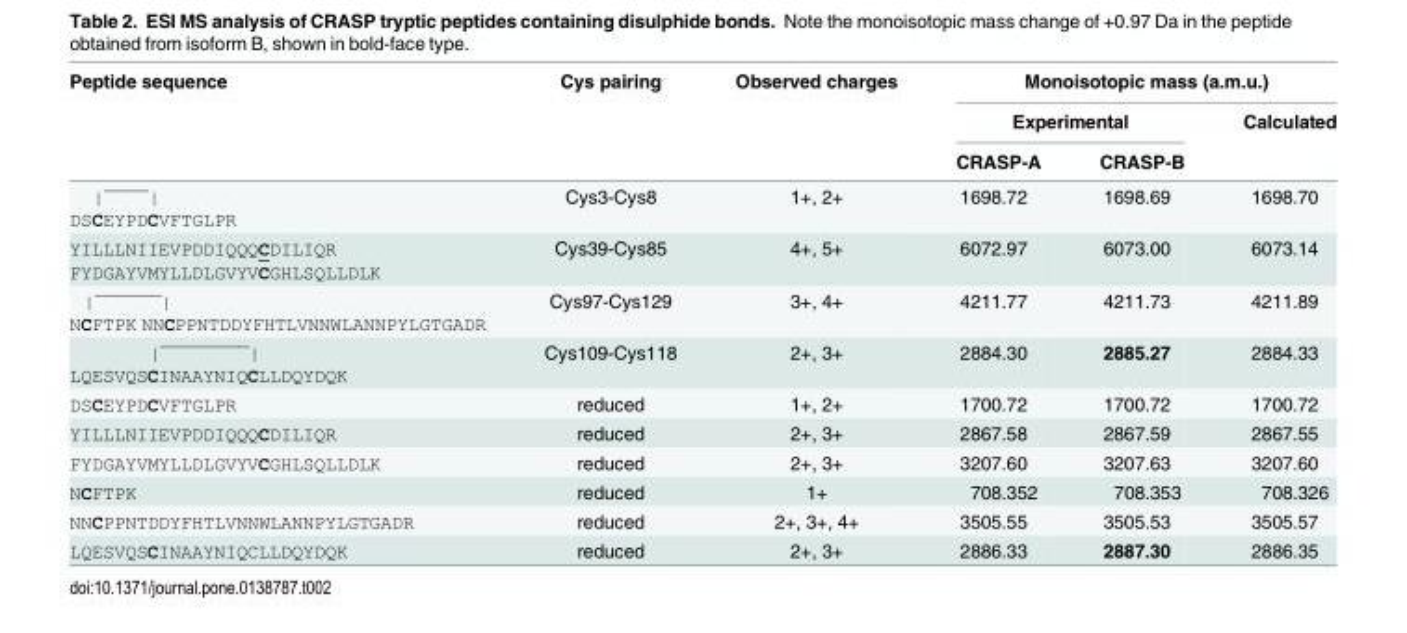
<table><thead><tr><td rowspan="3">Peptide sequence</td><td rowspan="3">Cys pairing</td><td rowspan="3">Observed charges</td><td colspan="3">Monoisotopic mass (a.m.u.)</td></tr><tr><td colspan="2">Experimental</td><td rowspan="2">Calculated</td></tr><tr><td>CRASP-A</td><td>CRASP-B</td></tr></thead><tbody><tr><td>|¯¯¯¯| DSCEYPDCVFTGLPR</td><td>Cys3-Cys8</td><td>1+, 2+</td><td>1698.72</td><td>1698.69</td><td>1698.70</td></tr><tr><td>YILLLNIIEVPDDIQQQCDILIQR FYDGAYVMYLLDLGVYVCGHLSQLLDLK</td><td>Cys39-Cys85</td><td>4+, 5+</td><td>6072.97</td><td>6073.00</td><td>6073.14</td></tr><tr><td>|¯¯¯¯¯¯| NCFTPK NNCPPNTDDYFHTLVNNWLANNPYLGTGADR</td><td>Cys97-Cys129</td><td>3+, 4+</td><td>4211.77</td><td>4211.73</td><td>4211.89</td></tr><tr><td>|¯¯¯¯¯¯¯¯| LQESVQSCINAAYNIQCLLDQYDQK</td><td>Cys109-Cys118</td><td>2+, 3+</td><td>2884.30</td><td>2885.27</td><td>2884.33</td></tr><tr><td>DSCEYPDCVFTGLPR</td><td>reduced</td><td>1+, 2+</td><td>1700.72</td><td>1700.72</td><td>1700.72</td></tr><tr><td>YILLLNIIEVPDDIQQQCDILIQR</td><td>reduced</td><td>2+, 3+</td><td>2867.58</td><td>2867.59</td><td>2867.55</td></tr><tr><td>FYDGAYVMYLLDLGVYVCGHLSQLLDLK</td><td>reduced</td><td>2+, 3+</td><td>3207.60</td><td>3207.63</td><td>3207.60</td></tr><tr><td>NCFTPK</td><td>reduced</td><td>1+</td><td>708.352</td><td>708.353</td><td>708.326</td></tr><tr><td>NNCPPNTDDYFHTLVNNWLANNPYLGTGADR</td><td>reduced</td><td>2+, 3+, 4+</td><td>3505.55</td><td>3505.53</td><td>3505.57</td></tr><tr><td>LQESVQSCINAAYNIQCLLDQYDQK</td><td>reduced</td><td>2+, 3+</td><td>2886.33</td><td>2887.30</td><td>2886.35</td></tr></tbody></table>